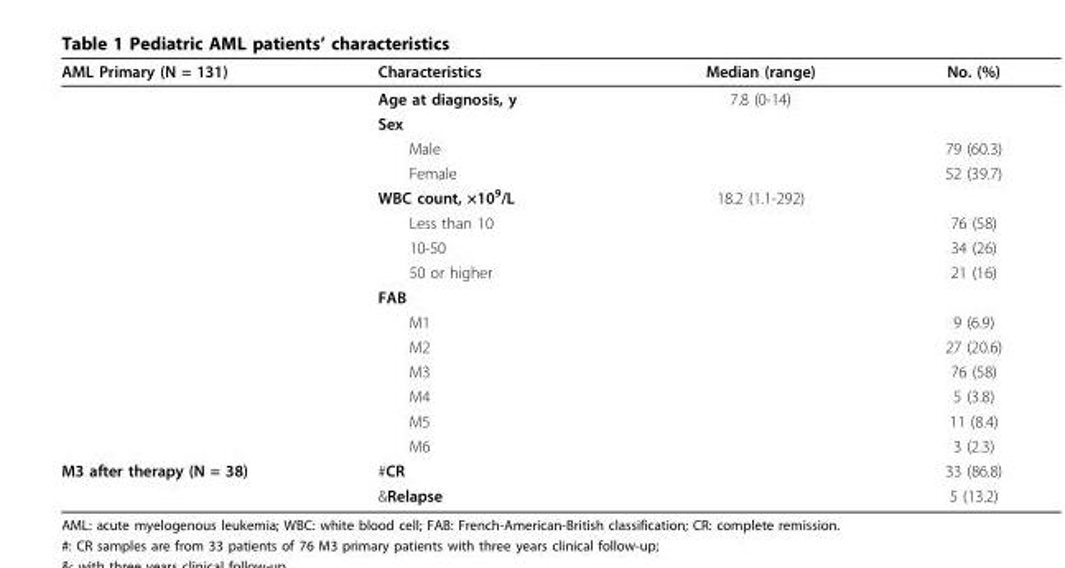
<table><thead><tr><td>AML Primary (N = 131)</td><td>Characteristics</td><td>Median (range)</td><td>No. (%)</td></tr></thead><tbody><tr><td></td><td>Age at diagnosis, y</td><td>7.8 (0-14)</td><td></td></tr><tr><td></td><td>Sex</td><td></td><td></td></tr><tr><td></td><td>Male</td><td></td><td>79 (60.3)</td></tr><tr><td></td><td>Female</td><td></td><td>52 (39.7)</td></tr><tr><td></td><td>WBC count, ×10<sup>9</sup>/L</td><td>18.2 (1.1-292)</td><td></td></tr><tr><td></td><td>Less than 10</td><td></td><td>76 (58)</td></tr><tr><td></td><td>10-50</td><td></td><td>34 (26)</td></tr><tr><td></td><td>50 or higher</td><td></td><td>21 (16)</td></tr><tr><td></td><td>FAB</td><td></td><td></td></tr><tr><td></td><td>M1</td><td></td><td>9 (6.9)</td></tr><tr><td></td><td>M2</td><td></td><td>27 (20.6)</td></tr><tr><td></td><td>M3</td><td></td><td>76 (58)</td></tr><tr><td></td><td>M4</td><td></td><td>5 (3.8)</td></tr><tr><td></td><td>M5</td><td></td><td>11 (8.4)</td></tr><tr><td></td><td>M6</td><td></td><td>3 (2.3)</td></tr><tr><td rowspan="2">M3 after therapy (N = 38)</td><td>#CR</td><td></td><td>33 (86.8)</td></tr><tr><td>&amp;Relapse</td><td></td><td>5 (13.2)</td></tr></tbody></table>